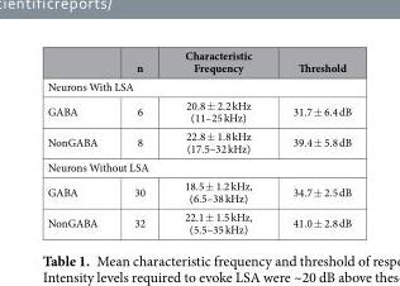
<table><thead><tr><td></td><td>n</td><td>Characteristic Frequency</td><td>Threshold</td></tr></thead><tbody><tr><td colspan="4">Neurons With LSA</td></tr><tr><td>GABA</td><td>6</td><td>20.8 ± 2.2 kHz (11–25 kHz)</td><td>31.7 ± 6.4 dB</td></tr><tr><td>NonGABA</td><td>8</td><td>22.8 ± 1.8 kHz (17.5–32 kHz)</td><td>39.4 ± 5.8 dB</td></tr><tr><td colspan="4">Neurons Without LSA</td></tr><tr><td>GABA</td><td>30</td><td>18.5 ± 1.2 kHz, (6.5–38 kHz)</td><td>34.7 ± 2.5 dB</td></tr><tr><td>NonGABA</td><td>32</td><td>22.1 ± 1.5 kHz, (5.5–35 kHz)</td><td>41.0 ± 2.8 dB</td></tr></tbody></table>